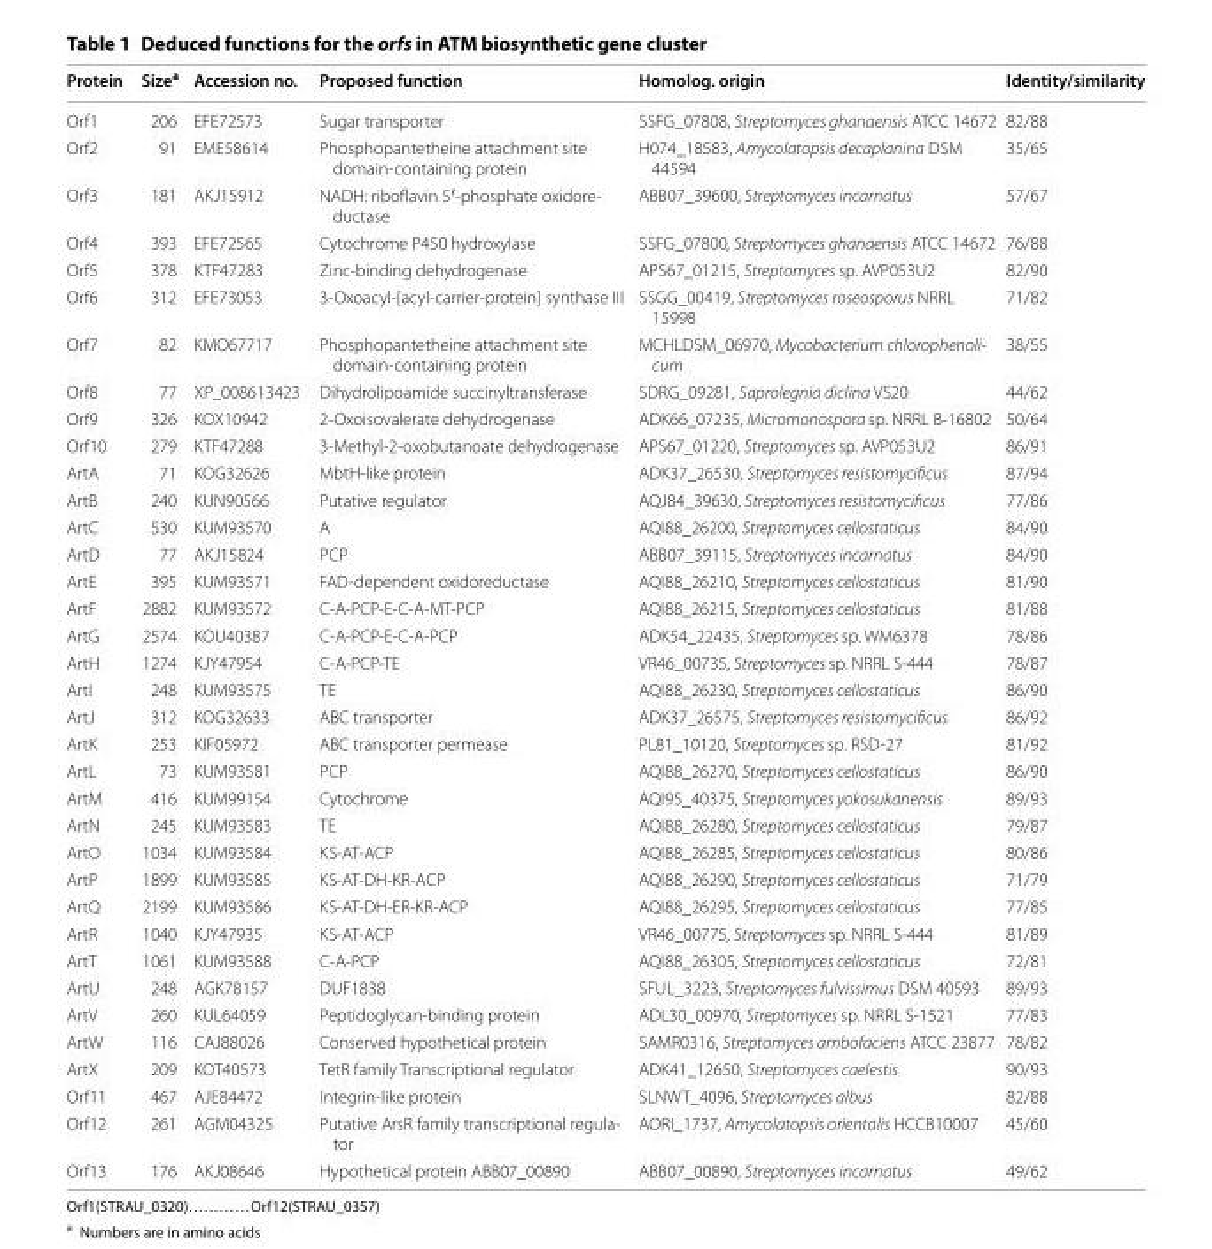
<table><thead><tr><td>Protein</td><td>Size<sup>a</sup></td><td>Accession no.</td><td>Proposed function</td><td>Homolog. origin</td><td>Identity/similarity</td></tr></thead><tbody><tr><td>Orf1</td><td>206</td><td>EFE72573</td><td>Sugar transporter</td><td>SSFG_07808, Streptomyces ghanaensis ATCC 14672</td><td>82/88</td></tr><tr><td>Orf2</td><td>91</td><td>EME58614</td><td>Phosphopantetheine attachment site domain-containing protein</td><td>H074_18583, Amycolatopsis decaplanina DSM 44594</td><td>35/65</td></tr><tr><td>Orf3</td><td>181</td><td>AKJ15912</td><td>NADH: riboflavin 5′-phosphate oxidore- ductase</td><td>ABB07_39600, Streptomyces incarnatus</td><td>57/67</td></tr><tr><td>Orf4</td><td>393</td><td>EFE72565</td><td>Cytochrome P450 hydroxylase</td><td>SSFG_07800, Streptomyces ghanaensis ATCC 14672</td><td>76/88</td></tr><tr><td>Orf5</td><td>378</td><td>KTF47283</td><td>Zinc-binding dehydrogenase</td><td>APS67_01215, Streptomyces sp. AVP053U2</td><td>82/90</td></tr><tr><td>Orf6</td><td>312</td><td>EFE73053</td><td>3-Oxoacyl-[acyl-carrier-protein] synthase III</td><td>SSGG_00419, Streptomyces roseosporus NRRL 15998</td><td>71/82</td></tr><tr><td>Orf7</td><td>82</td><td>KMO67717</td><td>Phosphopantetheine attachment site domain-containing protein</td><td>MCHLDSM_06970, Mycobacterium chlorophenoli- cum</td><td>38/55</td></tr><tr><td>Orf8</td><td>77</td><td>XP_008613423</td><td>Dihydrolipoamide succinyltransferase</td><td>SDRG_09281, Saprolegnia diclina VS20</td><td>44/62</td></tr><tr><td>Orf9</td><td>326</td><td>KOX10942</td><td>2-Oxoisovalerate dehydrogenase</td><td>ADK66_07235, Micromonospora sp. NRRL B-16802</td><td>50/64</td></tr><tr><td>Orf10</td><td>279</td><td>KTF47288</td><td>3-Methyl-2-oxobutanoate dehydrogenase</td><td>APS67_01220, Streptomyces sp. AVP053U2</td><td>86/91</td></tr><tr><td>ArtA</td><td>71</td><td>KOG32626</td><td>MbtH-like protein</td><td>ADK37_26530, Streptomyces resistomycificus</td><td>87/94</td></tr><tr><td>ArtB</td><td>240</td><td>KUN90566</td><td>Putative regulator</td><td>AQJ84_39630, Streptomyces resistomycificus</td><td>77/86</td></tr><tr><td>ArtC</td><td>530</td><td>KUM93570</td><td>A</td><td>AQI88_26200, Streptomyces cellostaticus</td><td>84/90</td></tr><tr><td>ArtD</td><td>77</td><td>AKJ15824</td><td>PCP</td><td>ABB07_39115, Streptomyces incarnatus</td><td>84/90</td></tr><tr><td>ArtE</td><td>395</td><td>KUM93571</td><td>FAD-dependent oxidoreductase</td><td>AQI88_26210, Streptomyces cellostaticus</td><td>81/90</td></tr><tr><td>ArtF</td><td>2882</td><td>KUM93572</td><td>C-A-PCP-E-C-A-MT-PCP</td><td>AQI88_26215, Streptomyces cellostaticus</td><td>81/88</td></tr><tr><td>ArtG</td><td>2574</td><td>KOU40387</td><td>C-A-PCP-E-C-A-PCP</td><td>ADK54_22435, Streptomyces sp. WM6378</td><td>78/86</td></tr><tr><td>ArtH</td><td>1274</td><td>KJY47954</td><td>C-A-PCP-TE</td><td>VR46_00735, Streptomyces sp. NRRL S-444</td><td>78/87</td></tr><tr><td>ArtI</td><td>248</td><td>KUM93575</td><td>TE</td><td>AQI88_26230, Streptomyces cellostaticus</td><td>86/90</td></tr><tr><td>ArtJ</td><td>312</td><td>KOG32633</td><td>ABC transporter</td><td>ADK37_26575, Streptomyces resistomycificus</td><td>86/92</td></tr><tr><td>ArtK</td><td>253</td><td>KIF05972</td><td>ABC transporter permease</td><td>PL81_10120, Streptomyces sp. RSD-27</td><td>81/92</td></tr><tr><td>ArtL</td><td>73</td><td>KUM93581</td><td>PCP</td><td>AQI88_26270, Streptomyces cellostaticus</td><td>86/90</td></tr><tr><td>ArtM</td><td>416</td><td>KUM99154</td><td>Cytochrome</td><td>AQI95_40375, Streptomyces yokosukanensis</td><td>89/93</td></tr><tr><td>ArtN</td><td>245</td><td>KUM93583</td><td>TE</td><td>AQI88_26280, Streptomyces cellostaticus</td><td>79/87</td></tr><tr><td>ArtO</td><td>1034</td><td>KUM93584</td><td>KS-AT-ACP</td><td>AQI88_26285, Streptomyces cellostaticus</td><td>80/86</td></tr><tr><td>ArtP</td><td>1899</td><td>KUM93585</td><td>KS-AT-DH-KR-ACP</td><td>AQI88_26290, Streptomyces cellostaticus</td><td>71/79</td></tr><tr><td>ArtQ</td><td>2199</td><td>KUM93586</td><td>KS-AT-DH-ER-KR-ACP</td><td>AQI88_26295, Streptomyces cellostaticus</td><td>77/85</td></tr><tr><td>ArtR</td><td>1040</td><td>KJY47935</td><td>KS-AT-ACP</td><td>VR46_00775, Streptomyces sp. NRRL S-444</td><td>81/89</td></tr><tr><td>ArtT</td><td>1061</td><td>KUM93588</td><td>C-A-PCP</td><td>AQI88_26305, Streptomyces cellostaticus</td><td>72/81</td></tr><tr><td>ArtU</td><td>248</td><td>AGK78157</td><td>DUF1838</td><td>SFUL_3223, Streptomyces fulvissimus DSM 40593</td><td>89/93</td></tr><tr><td>ArtV</td><td>260</td><td>KUL64059</td><td>Peptidoglycan-binding protein</td><td>ADL30_00970, Streptomyces sp. NRRL S-1521</td><td>77/83</td></tr><tr><td>ArtW</td><td>116</td><td>CAJ88026</td><td>Conserved hypothetical protein</td><td>SAMR0316, Streptomyces ambofaciens ATCC 23877</td><td>78/82</td></tr><tr><td>ArtX</td><td>209</td><td>KOT40573</td><td>TetR family Transcriptional regulator</td><td>ADK41_12650, Streptomyces caelestis</td><td>90/93</td></tr><tr><td>Orf11</td><td>467</td><td>AJE84472</td><td>Integrin-like protein</td><td>SLNWT_4096, Streptomyces albus</td><td>82/88</td></tr><tr><td>Orf12</td><td>261</td><td>AGM04325</td><td>Putative ArsR family transcriptional regula- tor</td><td>AORI_1737, Amycolatopsis orientalis HCCB10007</td><td>45/60</td></tr><tr><td>Orf13</td><td>176</td><td>AKJ08646</td><td>Hypothetical protein ABB07_00890</td><td>ABB07_00890, Streptomyces incarnatus</td><td>49/62</td></tr></tbody></table>